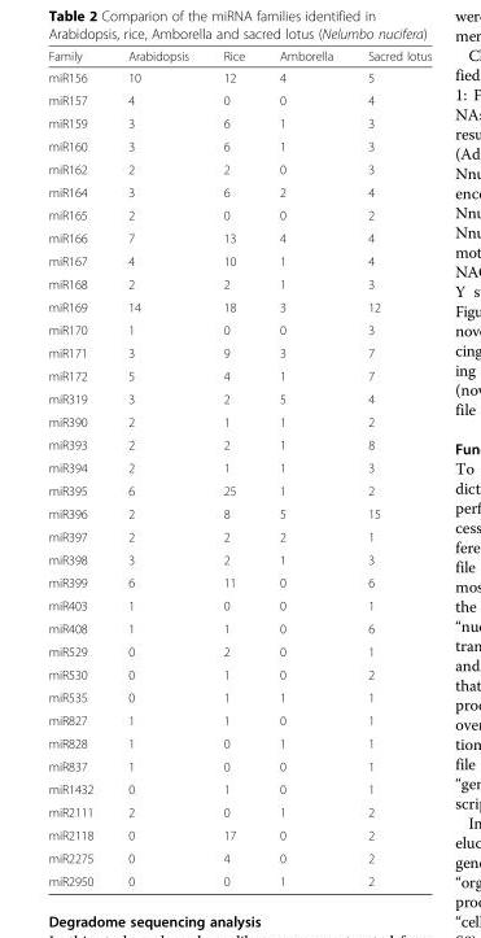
<table><thead><tr><td>Family</td><td>Arabidopsis</td><td>Rice</td><td>Amborella</td><td>Sacred lotus</td></tr></thead><tbody><tr><td>miR156</td><td>10</td><td>12</td><td>4</td><td>5</td></tr><tr><td>miR157</td><td>4</td><td>0</td><td>0</td><td>4</td></tr><tr><td>miR159</td><td>3</td><td>6</td><td>1</td><td>3</td></tr><tr><td>miR160</td><td>3</td><td>6</td><td>1</td><td>3</td></tr><tr><td>miR162</td><td>2</td><td>2</td><td>0</td><td>3</td></tr><tr><td>miR164</td><td>3</td><td>6</td><td>2</td><td>4</td></tr><tr><td>miR165</td><td>2</td><td>0</td><td>0</td><td>2</td></tr><tr><td>miR166</td><td>7</td><td>13</td><td>4</td><td>4</td></tr><tr><td>miR167</td><td>4</td><td>10</td><td>1</td><td>4</td></tr><tr><td>miR168</td><td>2</td><td>2</td><td>1</td><td>3</td></tr><tr><td>miR169</td><td>14</td><td>18</td><td>3</td><td>12</td></tr><tr><td>miR170</td><td>1</td><td>0</td><td>0</td><td>3</td></tr><tr><td>miR171</td><td>3</td><td>9</td><td>3</td><td>7</td></tr><tr><td>miR172</td><td>5</td><td>4</td><td>1</td><td>7</td></tr><tr><td>miR319</td><td>3</td><td>2</td><td>5</td><td>4</td></tr><tr><td>miR390</td><td>2</td><td>1</td><td>1</td><td>2</td></tr><tr><td>miR393</td><td>2</td><td>2</td><td>1</td><td>8</td></tr><tr><td>miR394</td><td>2</td><td>1</td><td>1</td><td>3</td></tr><tr><td>miR395</td><td>6</td><td>25</td><td>1</td><td>2</td></tr><tr><td>miR396</td><td>2</td><td>8</td><td>5</td><td>15</td></tr><tr><td>miR397</td><td>2</td><td>2</td><td>2</td><td>1</td></tr><tr><td>miR398</td><td>3</td><td>2</td><td>1</td><td>3</td></tr><tr><td>miR399</td><td>6</td><td>11</td><td>0</td><td>6</td></tr><tr><td>miR403</td><td>1</td><td>0</td><td>0</td><td>1</td></tr><tr><td>miR408</td><td>1</td><td>1</td><td>0</td><td>6</td></tr><tr><td>miR529</td><td>0</td><td>2</td><td>0</td><td>1</td></tr><tr><td>miR530</td><td>0</td><td>1</td><td>0</td><td>2</td></tr><tr><td>miR535</td><td>0</td><td>1</td><td>1</td><td>1</td></tr><tr><td>miR827</td><td>1</td><td>1</td><td>0</td><td>1</td></tr><tr><td>miR828</td><td>1</td><td>0</td><td>1</td><td>1</td></tr><tr><td>miR837</td><td>1</td><td>0</td><td>0</td><td>1</td></tr><tr><td>miR1432</td><td>0</td><td>1</td><td>0</td><td>1</td></tr><tr><td>miR2111</td><td>2</td><td>0</td><td>1</td><td>2</td></tr><tr><td>miR2118</td><td>0</td><td>17</td><td>0</td><td>2</td></tr><tr><td>miR2275</td><td>0</td><td>4</td><td>0</td><td>2</td></tr><tr><td>miR2950</td><td>0</td><td>0</td><td>1</td><td>2</td></tr></tbody></table>